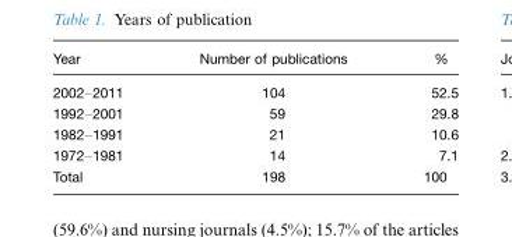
<table><thead><tr><td>Year</td><td>Number of publications</td><td>%</td></tr></thead><tbody><tr><td>2002–2011</td><td>104</td><td>52.5</td></tr><tr><td>1992–2001</td><td>59</td><td>29.8</td></tr><tr><td>1982–1991</td><td>21</td><td>10.6</td></tr><tr><td>1972–1981</td><td>14</td><td>7.1</td></tr><tr><td>Total</td><td>198</td><td>100</td></tr></tbody></table>